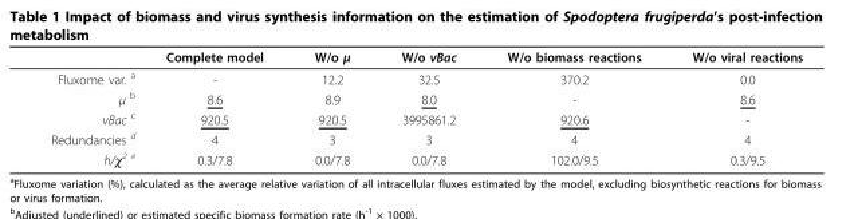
<table><thead><tr><td></td><td>Complete model</td><td>W/o μ</td><td>W/o vBac</td><td>W/o biomass reactions</td><td>W/o viral reactions</td></tr></thead><tbody><tr><td>Fluxome var. <sup>a</sup></td><td>-</td><td>12.2</td><td>32.5</td><td>370.2</td><td>0.0</td></tr><tr><td>μ <sup>b</sup></td><td>8.6</td><td>8.9</td><td>8.0</td><td>-</td><td>8.6</td></tr><tr><td>vBac <sup>c</sup></td><td>920.5</td><td>920.5</td><td>3995861.2</td><td>920.6</td><td>-</td></tr><tr><td>Redundancies <sup>d</sup></td><td>4</td><td>3</td><td>3</td><td>4</td><td>4</td></tr><tr><td>h/χ<sup>2 e</sup></td><td>0.3/7.8</td><td>0.0/7.8</td><td>0.0/7.8</td><td>102.0/9.5</td><td>0.3/9.5</td></tr></tbody></table>